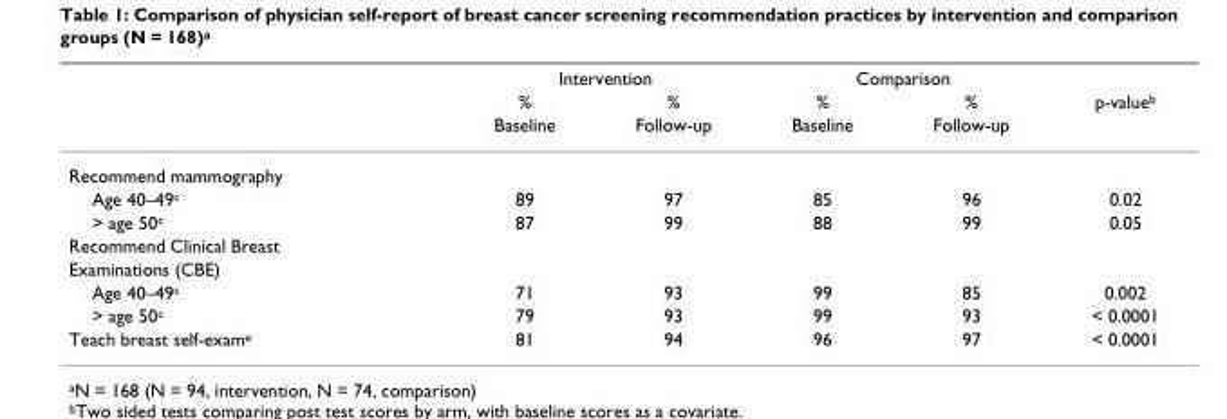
<table><thead><tr><td rowspan="3"></td><td colspan="2">Intervention</td><td colspan="2">Comparison</td><td rowspan="3">p-value<sup>b</sup></td></tr><tr><td rowspan="2">% Baseline</td><td rowspan="2">% Follow-up</td><td rowspan="2">% Baseline</td><td rowspan="2">% Follow-up</td></tr><tr></tr></thead><tbody><tr><td colspan="6">Recommend mammography</td></tr><tr><td>Age 40–49<sup>c</sup></td><td>89</td><td>97</td><td>85</td><td>96</td><td>0.02</td></tr><tr><td>&gt; age 50<sup>c</sup></td><td>87</td><td>99</td><td>88</td><td>99</td><td>0.05</td></tr><tr><td colspan="6">Recommend Clinical Breast</td></tr><tr><td colspan="6">Examinations (CBE)</td></tr><tr><td>Age 40–49<sup>c</sup></td><td>71</td><td>93</td><td>99</td><td>85</td><td>0.002</td></tr><tr><td>&gt; age 50<sup>c</sup></td><td>79</td><td>93</td><td>99</td><td>93</td><td>&lt; 0.0001</td></tr><tr><td>Teach breast self-exam<sup>e</sup></td><td>81</td><td>94</td><td>96</td><td>97</td><td>&lt; 0.0001</td></tr></tbody></table>